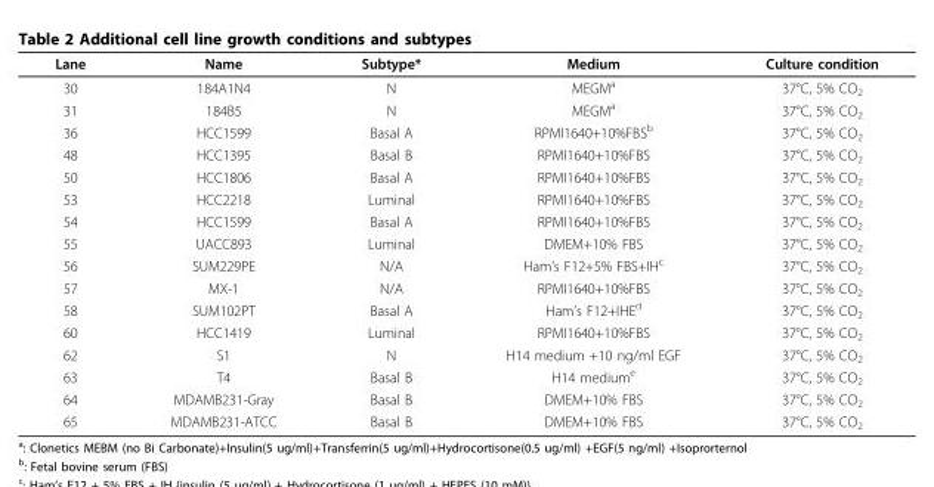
<table><thead><tr><td>Lane</td><td>Name</td><td>Subtype*</td><td>Medium</td><td>Culture condition</td></tr></thead><tbody><tr><td>30</td><td>184A1N4</td><td>N</td><td>MEGM<sup>a</sup></td><td>37°C, 5% CO<sub>2</sub></td></tr><tr><td>31</td><td>184B5</td><td>N</td><td>MEGM<sup>a</sup></td><td>37°C, 5% CO<sub>2</sub></td></tr><tr><td>36</td><td>HCC1599</td><td>Basal A</td><td>RPMI1640+10%FBS<sup>b</sup></td><td>37°C, 5% CO<sub>2</sub></td></tr><tr><td>48</td><td>HCC1395</td><td>Basal B</td><td>RPMI1640+10%FBS</td><td>37°C, 5% CO<sub>2</sub></td></tr><tr><td>50</td><td>HCC1806</td><td>Basal A</td><td>RPMI1640+10%FBS</td><td>37°C, 5% CO<sub>2</sub></td></tr><tr><td>53</td><td>HCC2218</td><td>Luminal</td><td>RPMI1640+10%FBS</td><td>37°C, 5% CO<sub>2</sub></td></tr><tr><td>54</td><td>HCC1599</td><td>Basal A</td><td>RPMI1640+10%FBS</td><td>37°C, 5% CO<sub>2</sub></td></tr><tr><td>55</td><td>UACC893</td><td>Luminal</td><td>DMEM+10% FBS</td><td>37°C, 5% CO<sub>2</sub></td></tr><tr><td>56</td><td>SUM229PE</td><td>N/A</td><td>Ham’s F12+5% FBS+IH<sup>c</sup></td><td>37°C, 5% CO<sub>2</sub></td></tr><tr><td>57</td><td>MX-1</td><td>N/A</td><td>RPMI1640+10%FBS</td><td>37°C, 5% CO<sub>2</sub></td></tr><tr><td>58</td><td>SUM102PT</td><td>Basal A</td><td>Ham’s F12+IHE<sup>d</sup></td><td>37°C, 5% CO<sub>2</sub></td></tr><tr><td>60</td><td>HCC1419</td><td>Luminal</td><td>RPMI1640+10%FBS</td><td>37°C, 5% CO<sub>2</sub></td></tr><tr><td>62</td><td>S1</td><td>N</td><td>H14 medium +10 ng/ml EGF</td><td>37°C, 5% CO<sub>2</sub></td></tr><tr><td>63</td><td>T4</td><td>Basal B</td><td>H14 medium<sup>e</sup></td><td>37°C, 5% CO<sub>2</sub></td></tr><tr><td>64</td><td>MDAMB231-Gray</td><td>Basal B</td><td>DMEM+10% FBS</td><td>37°C, 5% CO<sub>2</sub></td></tr><tr><td>65</td><td>MDAMB231-ATCC</td><td>Basal B</td><td>DMEM+10% FBS</td><td>37°C, 5% CO<sub>2</sub></td></tr></tbody></table>